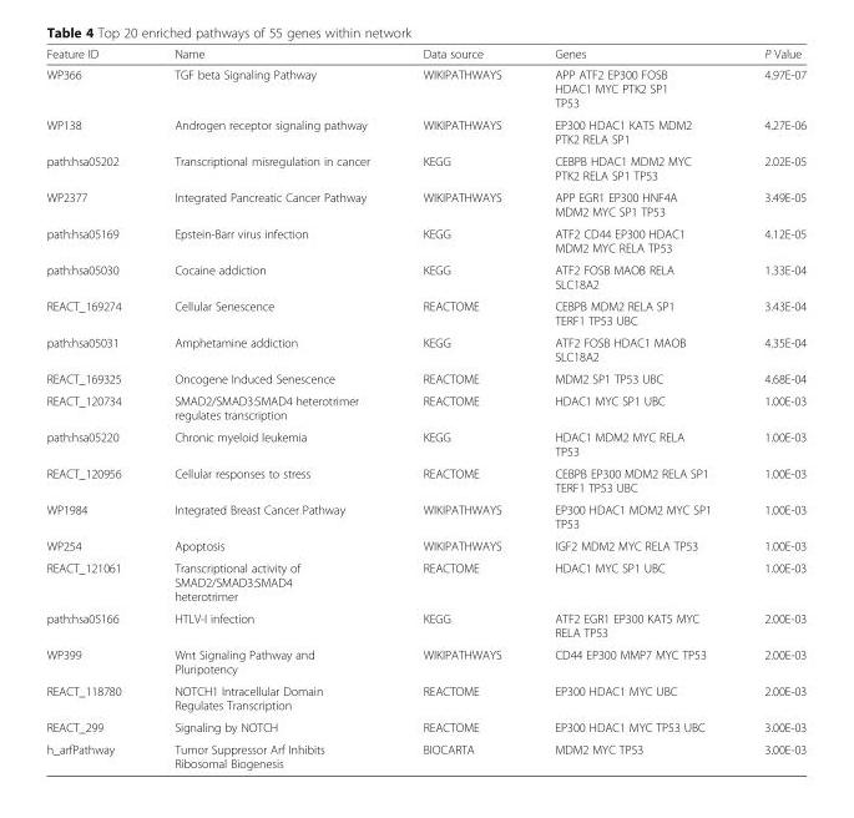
<table><thead><tr><td>Feature ID</td><td>Name</td><td>Data source</td><td>Genes</td><td>P Value</td></tr></thead><tbody><tr><td>WP366</td><td>TGF beta Signaling Pathway</td><td>WIKIPATHWAYS</td><td>APP ATF2 EP300 FOSB HDAC1 MYC PTK2 SP1 TP53</td><td>4.97E-07</td></tr><tr><td>WP138</td><td>Androgen receptor signaling pathway</td><td>WIKIPATHWAYS</td><td>EP300 HDAC1 KAT5 MDM2 PTK2 RELA SP1</td><td>4.27E-06</td></tr><tr><td>path:hsa05202</td><td>Transcriptional misregulation in cancer</td><td>KEGG</td><td>CEBPB HDAC1 MDM2 MYC PTK2 RELA SP1 TP53</td><td>2.02E-05</td></tr><tr><td>WP2377</td><td>Integrated Pancreatic Cancer Pathway</td><td>WIKIPATHWAYS</td><td>APP EGR1 EP300 HNF4A MDM2 MYC SP1 TP53</td><td>3.49E-05</td></tr><tr><td>path:hsa05169</td><td>Epstein-Barr virus infection</td><td>KEGG</td><td>ATF2 CD44 EP300 HDAC1 MDM2 MYC RELA TP53</td><td>4.12E-05</td></tr><tr><td>path:hsa05030</td><td>Cocaine addiction</td><td>KEGG</td><td>ATF2 FOSB MAOB RELA SLC18A2</td><td>1.33E-04</td></tr><tr><td>REACT_169274</td><td>Cellular Senescence</td><td>REACTOME</td><td>CEBPB MDM2 RELA SP1 TERF1 TP53 UBC</td><td>3.43E-04</td></tr><tr><td>path:hsa05031</td><td>Amphetamine addiction</td><td>KEGG</td><td>ATF2 FOSB HDAC1 MAOB SLC18A2</td><td>4.35E-04</td></tr><tr><td>REACT_169325</td><td>Oncogene Induced Senescence</td><td>REACTOME</td><td>MDM2 SP1 TP53 UBC</td><td>4.68E-04</td></tr><tr><td>REACT_120734</td><td>SMAD2/SMAD3:SMAD4 heterotrimer regulates transcription</td><td>REACTOME</td><td>HDAC1 MYC SP1 UBC</td><td>1.00E-03</td></tr><tr><td>path:hsa05220</td><td>Chronic myeloid leukemia</td><td>KEGG</td><td>HDAC1 MDM2 MYC RELA TP53</td><td>1.00E-03</td></tr><tr><td>REACT_120956</td><td>Cellular responses to stress</td><td>REACTOME</td><td>CEBPB EP300 MDM2 RELA SP1 TERF1 TP53 UBC</td><td>1.00E-03</td></tr><tr><td>WP1984</td><td>Integrated Breast Cancer Pathway</td><td>WIKIPATHWAYS</td><td>EP300 HDAC1 MDM2 MYC SP1 TP53</td><td>1.00E-03</td></tr><tr><td>WP254</td><td>Apoptosis</td><td>WIKIPATHWAYS</td><td>IGF2 MDM2 MYC RELA TP53</td><td>1.00E-03</td></tr><tr><td>REACT_121061</td><td>Transcriptional activity of SMAD2/SMAD3:SMAD4 heterotrimer</td><td>REACTOME</td><td>HDAC1 MYC SP1 UBC</td><td>1.00E-03</td></tr><tr><td>path:hsa05166</td><td>HTLV-I infection</td><td>KEGG</td><td>ATF2 EGR1 EP300 KAT5 MYC RELA TP53</td><td>2.00E-03</td></tr><tr><td>WP399</td><td>Wnt Signaling Pathway and Pluripotency</td><td>WIKIPATHWAYS</td><td>CD44 EP300 MMP7 MYC TP53</td><td>2.00E-03</td></tr><tr><td>REACT_118780</td><td>NOTCH1 Intracellular Domain Regulates Transcription</td><td>REACTOME</td><td>EP300 HDAC1 MYC UBC</td><td>2.00E-03</td></tr><tr><td>REACT_299</td><td>Signaling by NOTCH</td><td>REACTOME</td><td>EP300 HDAC1 MYC TP53 UBC</td><td>3.00E-03</td></tr><tr><td>h_arfPathway</td><td>Tumor Suppressor Arf Inhibits Ribosomal Biogenesis</td><td>BIOCARTA</td><td>MDM2 MYC TP53</td><td>3.00E-03</td></tr></tbody></table>